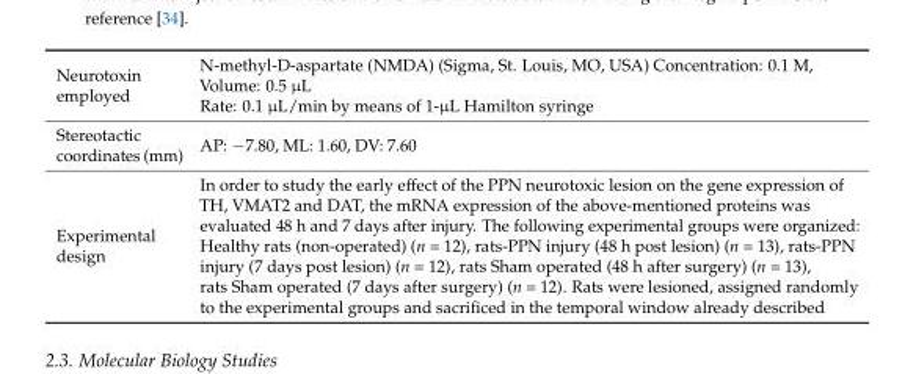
<table><tbody><tr><td>Neurotoxin employed</td><td>N-methyl-D-aspartate (NMDA) (Sigma, St. Louis, MO, USA) Concentration: 0.1 M, Volume: 0.5 µL Rate: 0.1 µL/min by means of 1-µL Hamilton syringe</td></tr><tr><td>Stereotactic coordinates (mm)</td><td>AP: −7.80, ML: 1.60, DV: 7.60</td></tr><tr><td>Experimental design</td><td>In order to study the early effect of the PPN neurotoxic lesion on the gene expression of TH, VMAT2 and DAT, the mRNA expression of the above-mentioned proteins was evaluated 48 h and 7 days after injury. The following experimental groups were organized: Healthy rats (non-operated) (n = 12), rats-PPN injury (48 h post lesion) (n = 13), rats-PPN injury (7 days post lesion) (n = 12), rats Sham operated (48 h after surgery) (n = 13), rats Sham operated (7 days after surgery) (n = 12). Rats were lesioned, assigned randomly to the experimental groups and sacrificed in the temporal window already described</td></tr></tbody></table>